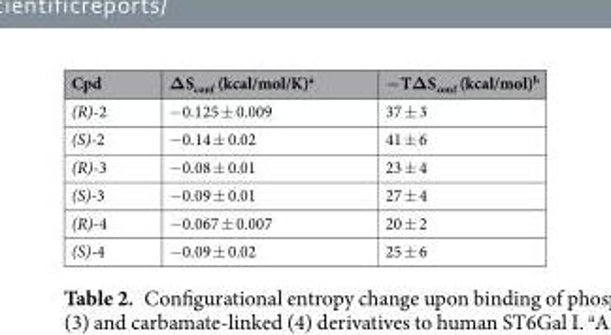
<table><thead><tr><td>Cpd</td><td>ΔS<sub>conf</sub> (kcal/mol/K)<sup>a</sup></td><td>−TΔS<sub>conf</sub> (kcal/mol)<sup>b</sup></td></tr></thead><tbody><tr><td>(R)-2</td><td>−0.125 ± 0.009</td><td>37 ± 3</td></tr><tr><td>(S)-2</td><td>−0.14 ± 0.02</td><td>41 ± 6</td></tr><tr><td>(R)-3</td><td>−0.08 ± 0.01</td><td>23 ± 4</td></tr><tr><td>(S)-3</td><td>−0.09 ± 0.01</td><td>27 ± 4</td></tr><tr><td>(R)-4</td><td>−0.067 ± 0.007</td><td>20 ± 2</td></tr><tr><td>(S)-4</td><td>−0.09 ± 0.02</td><td>25 ± 6</td></tr></tbody></table>